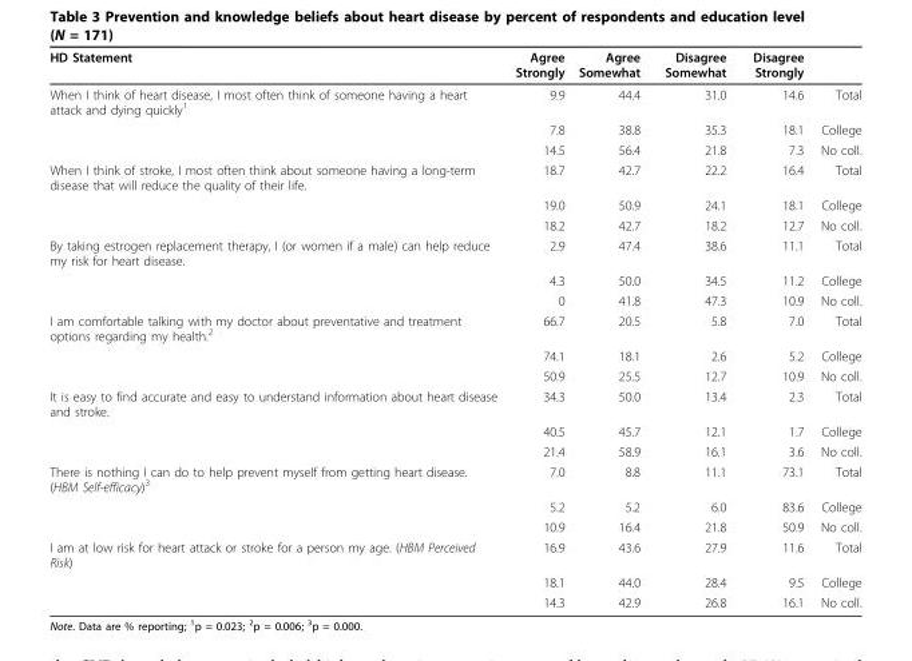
<table><thead><tr><td>HD Statement</td><td>Agree Strongly</td><td>Agree Somewhat</td><td>Disagree Somewhat</td><td>Disagree Strongly</td><td></td></tr></thead><tbody><tr><td rowspan="3">When I think of heart disease, I most often think of someone having a heart attack and dying quickly<sup>1</sup></td><td>9.9</td><td>44.4</td><td>31.0</td><td>14.6</td><td>Total</td></tr><tr><td>7.8</td><td>38.8</td><td>35.3</td><td>18.1</td><td>College</td></tr><tr><td>14.5</td><td>56.4</td><td>21.8</td><td>7.3</td><td>No coll.</td></tr><tr><td rowspan="3">When I think of stroke, I most often think about someone having a long-term disease that will reduce the quality of their life.</td><td>18.7</td><td>42.7</td><td>22.2</td><td>16.4</td><td>Total</td></tr><tr><td>19.0</td><td>50.9</td><td>24.1</td><td>18.1</td><td>College</td></tr><tr><td>18.2</td><td>42.7</td><td>18.2</td><td>12.7</td><td>No coll.</td></tr><tr><td rowspan="3">By taking estrogen replacement therapy, I (or women if a male) can help reduce my risk for heart disease.</td><td>2.9</td><td>47.4</td><td>38.6</td><td>11.1</td><td>Total</td></tr><tr><td>4.3</td><td>50.0</td><td>34.5</td><td>11.2</td><td>College</td></tr><tr><td>0</td><td>41.8</td><td>47.3</td><td>10.9</td><td>No coll.</td></tr><tr><td rowspan="3">I am comfortable talking with my doctor about preventative and treatment options regarding my health.<sup>2</sup></td><td>66.7</td><td>20.5</td><td>5.8</td><td>7.0</td><td>Total</td></tr><tr><td>74.1</td><td>18.1</td><td>2.6</td><td>5.2</td><td>College</td></tr><tr><td>50.9</td><td>25.5</td><td>12.7</td><td>10.9</td><td>No coll.</td></tr><tr><td rowspan="3">It is easy to find accurate and easy to understand information about heart disease and stroke.</td><td>34.3</td><td>50.0</td><td>13.4</td><td>2.3</td><td>Total</td></tr><tr><td>40.5</td><td>45.7</td><td>12.1</td><td>1.7</td><td>College</td></tr><tr><td>21.4</td><td>58.9</td><td>16.1</td><td>3.6</td><td>No coll.</td></tr><tr><td rowspan="3">There is nothing I can do to help prevent myself from getting heart disease. (HBM Self-efficacy)<sup>3</sup></td><td>7.0</td><td>8.8</td><td>11.1</td><td>73.1</td><td>Total</td></tr><tr><td>5.2</td><td>5.2</td><td>6.0</td><td>83.6</td><td>College</td></tr><tr><td>10.9</td><td>16.4</td><td>21.8</td><td>50.9</td><td>No coll.</td></tr><tr><td rowspan="3">I am at low risk for heart attack or stroke for a person my age. (HBM Perceived Risk)</td><td>16.9</td><td>43.6</td><td>27.9</td><td>11.6</td><td>Total</td></tr><tr><td>18.1</td><td>44.0</td><td>28.4</td><td>9.5</td><td>College</td></tr><tr><td>14.3</td><td>42.9</td><td>26.8</td><td>16.1</td><td>No coll.</td></tr></tbody></table>